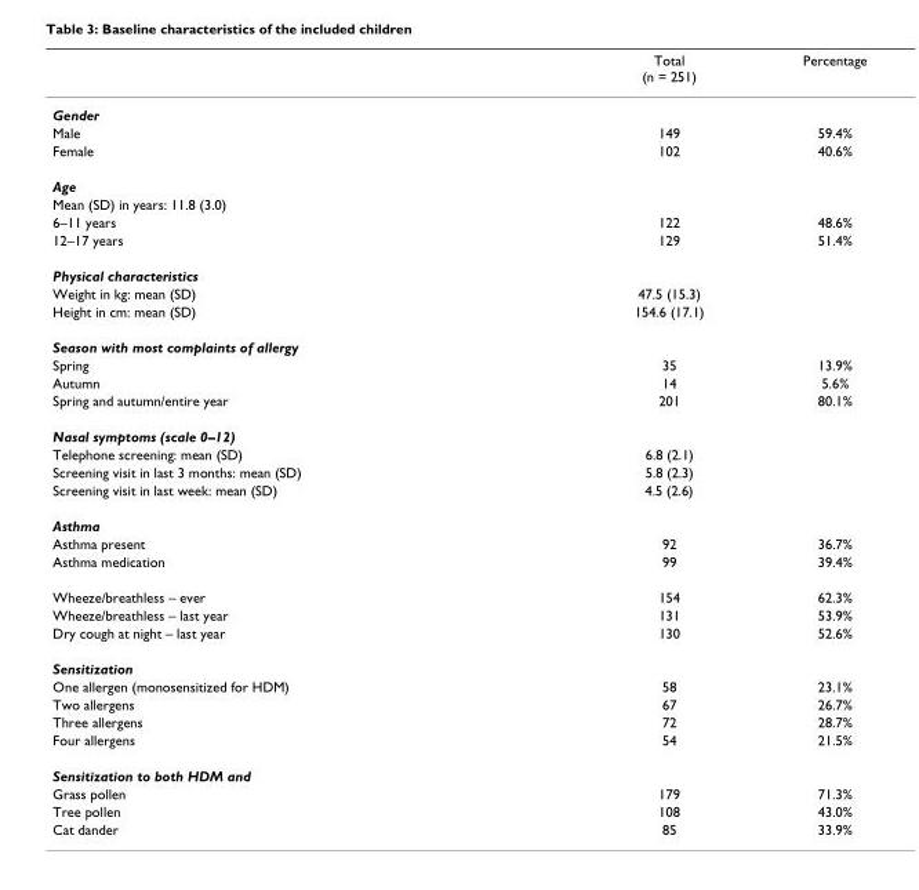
<table><thead><tr><td></td><td>Total (n = 251)</td><td>Percentage</td></tr></thead><tbody><tr><td colspan="3">Gender</td></tr><tr><td>Male</td><td>149</td><td>59.4%</td></tr><tr><td>Female</td><td>102</td><td>40.6%</td></tr><tr><td colspan="3">Age</td></tr><tr><td colspan="3">Mean (SD) in years: 11.8 (3.0)</td></tr><tr><td>6–11 years</td><td>122</td><td>48.6%</td></tr><tr><td>12–17 years</td><td>129</td><td>51.4%</td></tr><tr><td colspan="3">Physical characteristics</td></tr><tr><td>Weight in kg: mean (SD)</td><td>47.5 (15.3)</td><td></td></tr><tr><td>Height in cm: mean (SD)</td><td>154.6 (17.1)</td><td></td></tr><tr><td colspan="3">Season with most complaints of allergy</td></tr><tr><td>Spring</td><td>35</td><td>13.9%</td></tr><tr><td>Autumn</td><td>14</td><td>5.6%</td></tr><tr><td>Spring and autumn/entire year</td><td>201</td><td>80.1%</td></tr><tr><td colspan="3">Nasal symptoms (scale 0–12)</td></tr><tr><td>Telephone screening: mean (SD)</td><td>6.8 (2.1)</td><td></td></tr><tr><td>Screening visit in last 3 months: mean (SD)</td><td>5.8 (2.3)</td><td></td></tr><tr><td>Screening visit in last week: mean (SD)</td><td>4.5 (2.6)</td><td></td></tr><tr><td colspan="3">Asthma</td></tr><tr><td>Asthma present</td><td>92</td><td>36.7%</td></tr><tr><td>Asthma medication</td><td>99</td><td>39.4%</td></tr><tr><td>Wheeze/breathless – ever</td><td>154</td><td>62.3%</td></tr><tr><td>Wheeze/breathless – last year</td><td>131</td><td>53.9%</td></tr><tr><td>Dry cough at night – last year</td><td>130</td><td>52.6%</td></tr><tr><td colspan="3">Sensitization</td></tr><tr><td>One allergen (monosensitized for HDM)</td><td>58</td><td>23.1%</td></tr><tr><td>Two allergens</td><td>67</td><td>26.7%</td></tr><tr><td>Three allergens</td><td>72</td><td>28.7%</td></tr><tr><td>Four allergens</td><td>54</td><td>21.5%</td></tr><tr><td colspan="3">Sensitization to both HDM and</td></tr><tr><td>Grass pollen</td><td>179</td><td>71.3%</td></tr><tr><td>Tree pollen</td><td>108</td><td>43.0%</td></tr><tr><td>Cat dander</td><td>85</td><td>33.9%</td></tr></tbody></table>